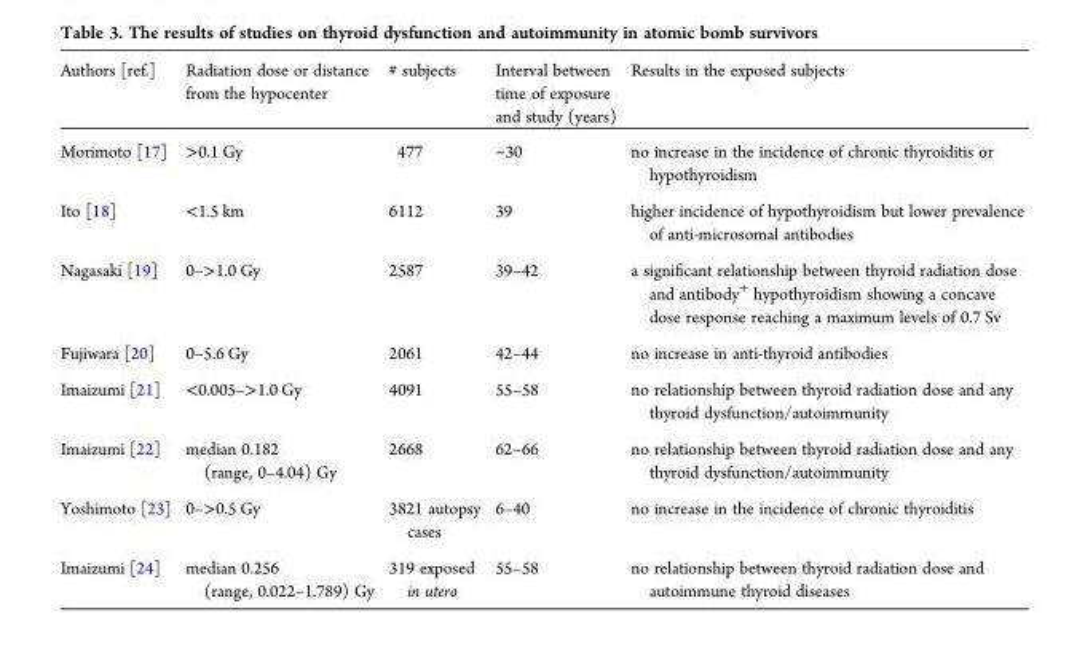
<table><thead><tr><td>Authors [ref.]</td><td>Radiation dose or distance from the hypocenter</td><td># subjects</td><td>Interval between time of exposure and study (years)</td><td>Results in the exposed subjects</td></tr></thead><tbody><tr><td>Morimoto [17]</td><td>&gt;0.1 Gy</td><td>477</td><td>~30</td><td>no increase in the incidence of chronic thyroiditis or hypothyroidism</td></tr><tr><td>Ito [18]</td><td>&lt;1.5 km</td><td>6112</td><td>39</td><td>higher incidence of hypothyroidism but lower prevalence of anti-microsomal antibodies</td></tr><tr><td>Nagasaki [19]</td><td>0–&gt;1.0 Gy</td><td>2587</td><td>39–42</td><td>a significant relationship between thyroid radiation dose and antibody<sup>+</sup> hypothyroidism showing a concave dose response reaching a maximum levels of 0.7 Sv</td></tr><tr><td>Fujiwara [20]</td><td>0–5.6 Gy</td><td>2061</td><td>42–44</td><td>no increase in anti-thyroid antibodies</td></tr><tr><td>Imaizumi [21]</td><td>&lt;0.005–&gt;1.0 Gy</td><td>4091</td><td>55–58</td><td>no relationship between thyroid radiation dose and any thyroid dysfunction/autoimmunity</td></tr><tr><td>Imaizumi [22]</td><td>median 0.182 (range, 0–4.04) Gy</td><td>2668</td><td>62–66</td><td>no relationship between thyroid radiation dose and any thyroid dysfunction/autoimmunity</td></tr><tr><td>Yoshimoto [23]</td><td>0–&gt;0.5 Gy</td><td>3821 autopsy cases</td><td>6–40</td><td>no increase in the incidence of chronic thyroiditis</td></tr><tr><td>Imaizumi [24]</td><td>median 0.256 (range, 0.022–1.789) Gy</td><td>319 exposed in utero</td><td>55–58</td><td>no relationship between thyroid radiation dose and autoimmune thyroid diseases</td></tr></tbody></table>